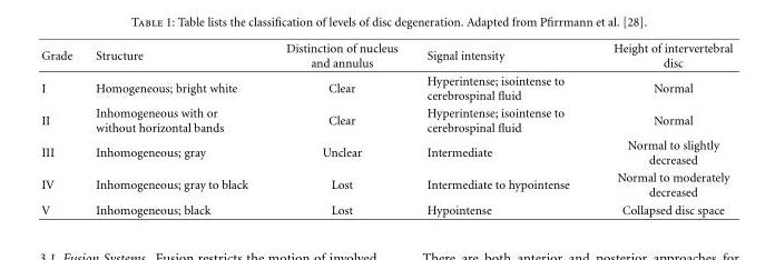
<table><thead><tr><td>Grade</td><td>Structure</td><td>Distinction of nucleus and annulus</td><td>Signal intensity</td><td>Height of intervertebral disc</td></tr></thead><tbody><tr><td>I</td><td>Homogeneous; bright white</td><td>Clear</td><td>Hyperintense; isointense to cerebrospinal fluid</td><td>Normal</td></tr><tr><td>II</td><td>Inhomogeneous with or without horizontal bands</td><td>Clear</td><td>Hyperintense; isointense to cerebrospinal fluid</td><td>Normal</td></tr><tr><td>III</td><td>Inhomogeneous; gray</td><td>Unclear</td><td>Intermediate</td><td>Normal to slightly decreased</td></tr><tr><td>IV</td><td>Inhomogeneous; gray to black</td><td>Lost</td><td>Intermediate to hypointense</td><td>Normal to moderately decreased</td></tr><tr><td>V</td><td>Inhomogeneous; black</td><td>Lost</td><td>Hypointense</td><td>Collapsed disc space</td></tr></tbody></table>